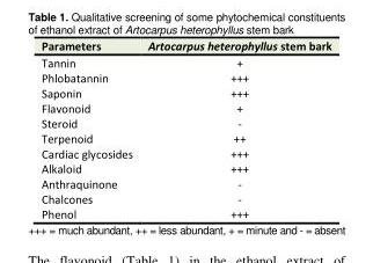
<table><tbody><tr><td>Parameters</td><td>Artocarpus heterophyllus stem bark</td></tr><tr><td>Tannin</td><td>+</td></tr><tr><td>Phlobatannin</td><td>+++</td></tr><tr><td>Saponin</td><td>+++</td></tr><tr><td>Flavonoid</td><td>+</td></tr><tr><td>Steroid</td><td>-</td></tr><tr><td>Terpenoid</td><td>++</td></tr><tr><td>Cardiac glycosides</td><td>+++</td></tr><tr><td>Alkaloid</td><td>+++</td></tr><tr><td>Anthraquinone</td><td>-</td></tr><tr><td>Chalcones</td><td>-</td></tr><tr><td>Phenol</td><td>+++</td></tr></tbody></table>